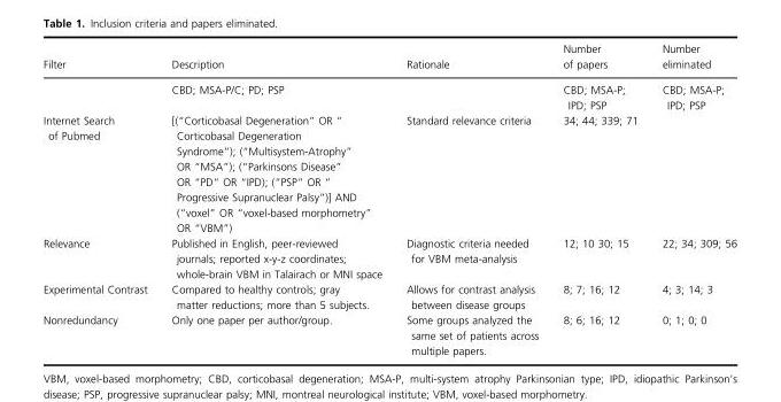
<table><thead><tr><td>Filter</td><td>Description</td><td>Rationale</td><td>Number of papers</td><td>Number eliminated</td></tr></thead><tbody><tr><td></td><td>CBD; MSA-P/C; PD; PSP</td><td></td><td>CBD; MSA-P; IPD; PSP</td><td>CBD; MSA-P; IPD; PSP</td></tr><tr><td>Internet Search of Pubmed</td><td>[(“Corticobasal Degeneration” OR “ Corticobasal Degeneration Syndrome”); (“Multisystem-Atrophy” OR “MSA”); (“Parkinsons Disease” OR “PD” OR “IPD); (“PSP” OR “ Progressive Supranuclear Palsy”)] AND (“voxel” OR “voxel-based morphometry” OR “VBM”)</td><td>Standard relevance criteria</td><td>34; 44; 339; 71</td><td></td></tr><tr><td>Relevance</td><td>Published in English, peer-reviewed journals; reported x-y-z coordinates; whole-brain VBM in Talairach or MNI space</td><td>Diagnostic criteria needed for VBM meta-analysis</td><td>12; 10 30; 15</td><td>22; 34; 309; 56</td></tr><tr><td>Experimental Contrast</td><td>Compared to healthy controls; gray matter reductions; more than 5 subjects.</td><td>Allows for contrast analysis between disease groups</td><td>8; 7; 16; 12</td><td>4; 3; 14; 3</td></tr><tr><td>Nonredundancy</td><td>Only one paper per author/group.</td><td>Some groups analyzed the same set of patients across multiple papers.</td><td>8; 6; 16; 12</td><td>0; 1; 0; 0</td></tr></tbody></table>